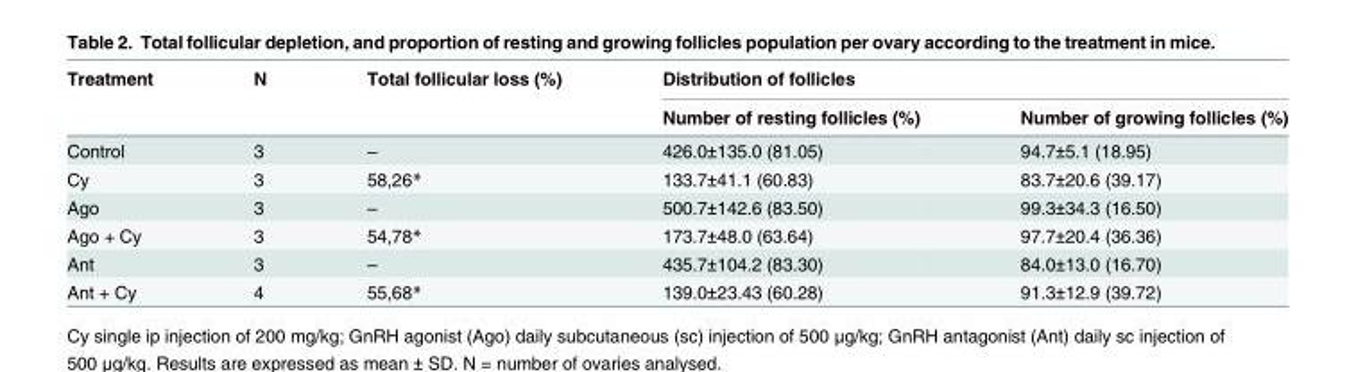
<table><thead><tr><td rowspan="2">Treatment</td><td rowspan="2">N</td><td rowspan="2">Total follicular loss (%)</td><td colspan="2">Distribution of follicles</td></tr><tr><td>Number of resting follicles (%)</td><td>Number of growing follicles (%)</td></tr></thead><tbody><tr><td>Control</td><td>3</td><td>–</td><td>426.0±135.0 (81.05)</td><td>94.7±5.1 (18.95)</td></tr><tr><td>Cy</td><td>3</td><td>58,26*</td><td>133.7±41.1 (60.83)</td><td>83.7±20.6 (39.17)</td></tr><tr><td>Ago</td><td>3</td><td>–</td><td>500.7±142.6 (83.50)</td><td>99.3±34.3 (16.50)</td></tr><tr><td>Ago + Cy</td><td>3</td><td>54,78*</td><td>173.7±48.0 (63.64)</td><td>97.7±20.4 (36.36)</td></tr><tr><td>Ant</td><td>3</td><td>–</td><td>435.7±104.2 (83.30)</td><td>84.0±13.0 (16.70)</td></tr><tr><td>Ant + Cy</td><td>4</td><td>55,68*</td><td>139.0±23.43 (60.28)</td><td>91.3±12.9 (39.72)</td></tr></tbody></table>